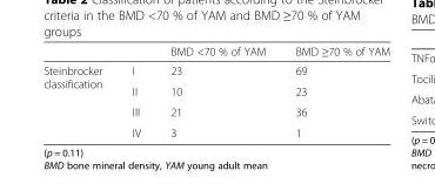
<table><thead><tr><td></td><td></td><td>BMD &lt;70 % of YAM</td><td>BMD ≥70 % of YAM</td></tr></thead><tbody><tr><td rowspan="4">Steinbrocker classification</td><td>I</td><td>23</td><td>69</td></tr><tr><td>II</td><td>10</td><td>23</td></tr><tr><td>III</td><td>21</td><td>36</td></tr><tr><td>IV</td><td>3</td><td>1</td></tr></tbody></table>